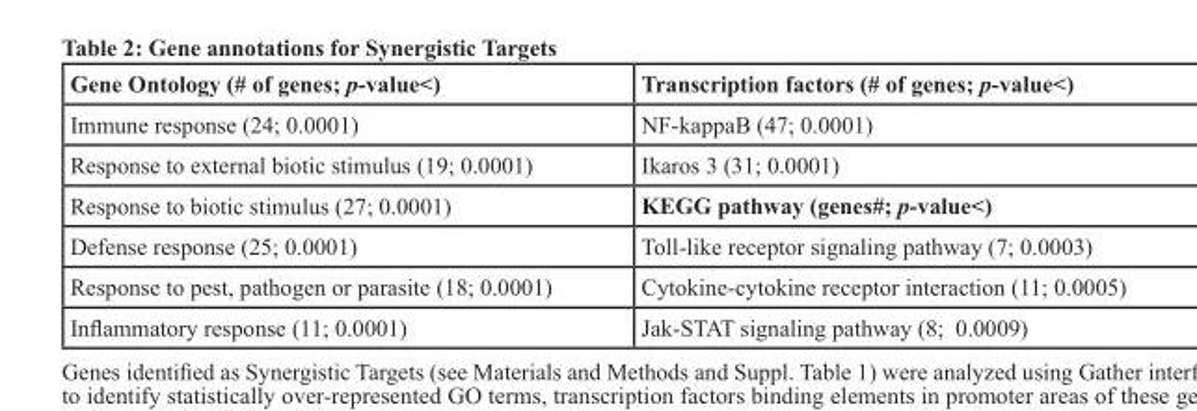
<table><thead><tr><td>Gene Ontology (# of genes; p-value&lt;)</td><td>Transcription factors (# of genes; p-value&lt;)</td></tr></thead><tbody><tr><td>Immune response (24; 0.0001)</td><td>NF-kappaB (47; 0.0001)</td></tr><tr><td>Response to external biotic stimulus (19; 0.0001)</td><td>Ikaros 3 (31; 0.0001)</td></tr><tr><td>Response to biotic stimulus (27; 0.0001)</td><td>KEGG pathway (genes#; p-value&lt;)</td></tr><tr><td>Defense response (25; 0.0001)</td><td>Toll-like receptor signaling pathway (7; 0.0003)</td></tr><tr><td>Response to pest, pathogen or parasite (18; 0.0001)</td><td>Cytokine-cytokine receptor interaction (11; 0.0005)</td></tr><tr><td>Inflammatory response (11; 0.0001)</td><td>Jak-STAT signaling pathway (8; 0.0009)</td></tr></tbody></table>